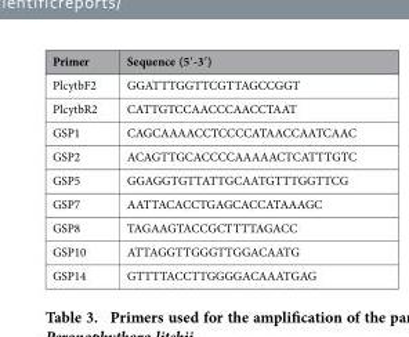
<table><thead><tr><td>Primer</td><td>Sequence (5′-3′)</td></tr></thead><tbody><tr><td>PlcytbF2</td><td>GGATTTGGTTCGTTAGCCGGT</td></tr><tr><td>PlcytbR2</td><td>CATTGTCCAACCCAACCTAAT</td></tr><tr><td>GSP1</td><td>CAGCAAAACCTCCCCATAACCAATCAAC</td></tr><tr><td>GSP2</td><td>ACAGTTGCACCCCAAAAACTCATTTGTC</td></tr><tr><td>GSP5</td><td>GGAGGTGTTATTGCAATGTTTGGTTCG</td></tr><tr><td>GSP7</td><td>AATTACACCTGAGCACCATAAAGC</td></tr><tr><td>GSP8</td><td>TAGAAGTACCGCTTTTAGACC</td></tr><tr><td>GSP10</td><td>ATTAGGTTGGGTTGGACAATG</td></tr><tr><td>GSP14</td><td>GTTTTACCTTGGGGACAAATGAG</td></tr></tbody></table>